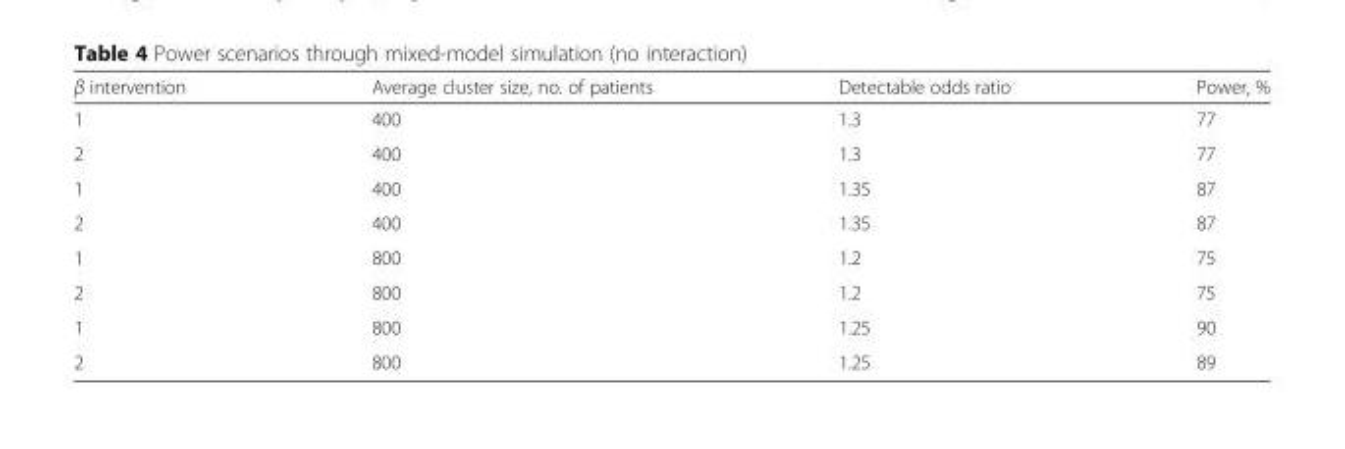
<table><thead><tr><td>β intervention</td><td>Average cluster size, no. of patients</td><td>Detectable odds ratio</td><td>Power, %</td></tr></thead><tbody><tr><td>1</td><td>400</td><td>1.3</td><td>77</td></tr><tr><td>2</td><td>400</td><td>1.3</td><td>77</td></tr><tr><td>1</td><td>400</td><td>1.35</td><td>87</td></tr><tr><td>2</td><td>400</td><td>1.35</td><td>87</td></tr><tr><td>1</td><td>800</td><td>1.2</td><td>75</td></tr><tr><td>2</td><td>800</td><td>1.2</td><td>75</td></tr><tr><td>1</td><td>800</td><td>1.25</td><td>90</td></tr><tr><td>2</td><td>800</td><td>1.25</td><td>89</td></tr></tbody></table>